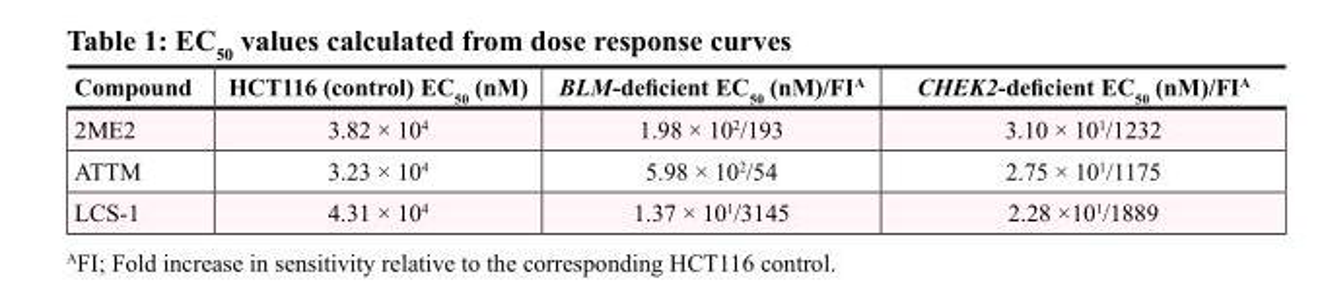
<table><thead><tr><td>Compound</td><td>HCT116 (control) EC<sub>50</sub> (nM)</td><td>BLM-deficient EC<sub>50</sub> (nM)/FI<sup>A</sup></td><td>CHEK2-deficient EC<sub>50</sub> (nM)/FI<sup>A</sup></td></tr></thead><tbody><tr><td>2ME2</td><td>3.82 × 10<sup>4</sup></td><td>1.98 × 10<sup>2</sup>/193</td><td>3.10 × 10<sup>1</sup>/1232</td></tr><tr><td>ATTM</td><td>3.23 × 10<sup>4</sup></td><td>5.98 × 10<sup>2</sup>/54</td><td>2.75 × 10<sup>1</sup>/1175</td></tr><tr><td>LCS-1</td><td>4.31 × 10<sup>4</sup></td><td>1.37 × 10<sup>1</sup>/3145</td><td>2.28 ×10<sup>1</sup>/1889</td></tr></tbody></table>